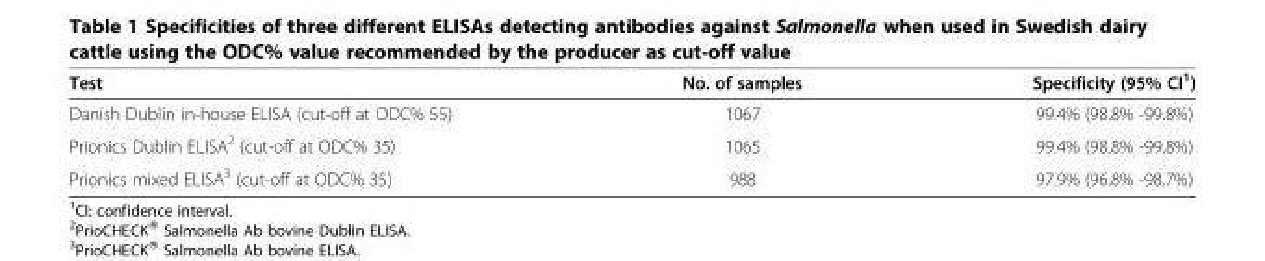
<table><thead><tr><td>Test</td><td>No. of samples</td><td>Specificity (95% CI<sup>1</sup>)</td></tr></thead><tbody><tr><td>Danish Dublin in-house ELISA (cut-off at ODC% 55)</td><td>1067</td><td>99.4% (98.8% -99.8%)</td></tr><tr><td>Prionics Dublin ELISA<sup>2</sup> (cut-off at ODC% 35)</td><td>1065</td><td>99.4% (98.8% -99.8%)</td></tr><tr><td>Prionics mixed ELISA<sup>3</sup> (cut-off at ODC% 35)</td><td>988</td><td>97.9% (96.8% -98.7%)</td></tr></tbody></table>